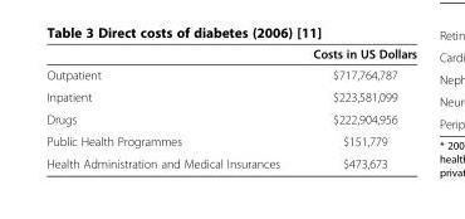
<table><thead><tr><td></td><td>Costs in US Dollars</td></tr></thead><tbody><tr><td>Outpatient</td><td>$717,764,787</td></tr><tr><td>Inpatient</td><td>$223,581,099</td></tr><tr><td>Drugs</td><td>$222,904,956</td></tr><tr><td>Public Health Programmes</td><td>$151,779</td></tr><tr><td>Health Administration and Medical Insurances</td><td>$473,673</td></tr></tbody></table>